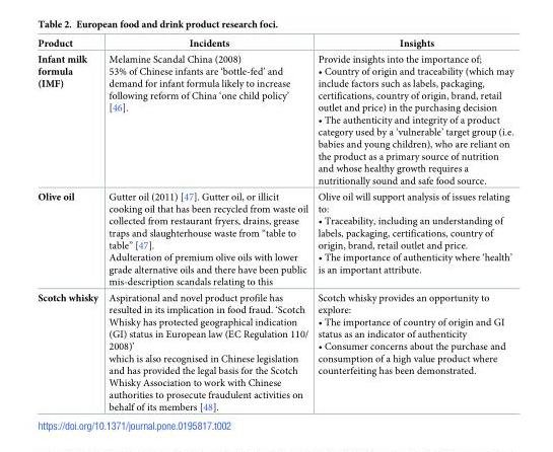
<table><thead><tr><td>Product</td><td>Incidents</td><td>Insights</td></tr></thead><tbody><tr><td>Infant milk formula (IMF)</td><td>Melamine Scandal China (2008) 53% of Chinese infants are ‘bottle-fed’ and demand for infant formula likely to increase following reform of China ‘one child policy’ [46].</td><td>Provide insights into the importance of; • Country of origin and traceability (which may include factors such as labels, packaging, certifications, country of origin, brand, retail outlet and price) in the purchasing decision • The authenticity and integrity of a product category used by a ‘vulnerable’ target group (i.e. babies and young children), who are reliant on the product as a primary source of nutrition and whose healthy growth requires a nutritionally sound and safe food source.</td></tr><tr><td>Olive oil</td><td>Gutter oil (2011) [47]. Gutter oil, or illicit cooking oil that has been recycled from waste oil collected from restaurant fryers, drains, grease traps and slaughterhouse waste from “table to table” [47]. Adulteration of premium olive oils with lower grade alternative oils and there have been public mis-description scandals relating to this</td><td>Olive oil will support analysis of issues relating to: • Traceability, including an understanding of labels, packaging, certifications, country of origin, brand, retail outlet and price. • The importance of authenticity where ‘health’ is an important attribute.</td></tr><tr><td>Scotch whisky</td><td>Aspirational and novel product profile has resulted in its implication in food fraud. ‘Scotch Whisky has protected geographical indication (GI) status in European law (EC Regulation 110/ 2008)’ which is also recognised in Chinese legislation and has provided the legal basis for the Scotch Whisky Association to work with Chinese authorities to prosecute fraudulent activities on behalf of its members [48].</td><td>Scotch whisky provides an opportunity to explore: • The importance of country of origin and GI status as an indicator of authenticity • Consumer concerns about the purchase and consumption of a high value product where counterfeiting has been demonstrated.</td></tr></tbody></table>